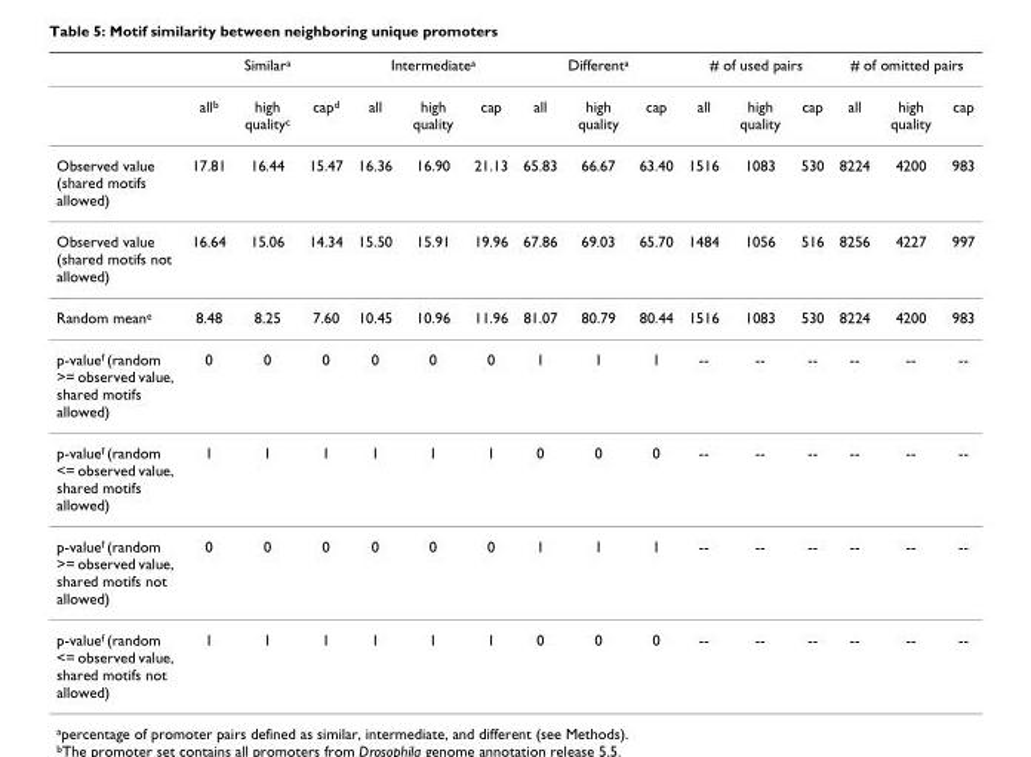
<table><thead><tr><td rowspan="2"></td><td colspan="3">Similar<sup>a</sup></td><td colspan="3">Intermediate<sup>a</sup></td><td colspan="3">Different<sup>a</sup></td><td colspan="3"># of used pairs</td><td colspan="3"># of omitted pairs</td></tr><tr><td>all<sup>b</sup></td><td>high quality<sup>c</sup></td><td>cap<sup>d</sup></td><td>all</td><td>high quality</td><td>cap</td><td>all</td><td>high quality</td><td>cap</td><td>all</td><td>high quality</td><td>cap</td><td>all</td><td>high quality</td><td>cap</td></tr></thead><tbody><tr><td>Observed value (shared motifs allowed)</td><td>17.81</td><td>16.44</td><td>15.47</td><td>16.36</td><td>16.90</td><td>21.13</td><td>65.83</td><td>66.67</td><td>63.40</td><td>1516</td><td>1083</td><td>530</td><td>8224</td><td>4200</td><td>983</td></tr><tr><td>Observed value (shared motifs not allowed)</td><td>16.64</td><td>15.06</td><td>14.34</td><td>15.50</td><td>15.91</td><td>19.96</td><td>67.86</td><td>69.03</td><td>65.70</td><td>1484</td><td>1056</td><td>516</td><td>8256</td><td>4227</td><td>997</td></tr><tr><td>Random mean<sup>e</sup></td><td>8.48</td><td>8.25</td><td>7.60</td><td>10.45</td><td>10.96</td><td>11.96</td><td>81.07</td><td>80.79</td><td>80.44</td><td>1516</td><td>1083</td><td>530</td><td>8224</td><td>4200</td><td>983</td></tr><tr><td>p-value<sup>f</sup> (random &gt;= observed value, shared motifs allowed)</td><td>0</td><td>0</td><td>0</td><td>0</td><td>0</td><td>0</td><td>1</td><td>1</td><td>1</td><td>--</td><td>--</td><td>--</td><td>--</td><td>--</td><td>--</td></tr><tr><td>p-value<sup>f</sup> (random &lt;= observed value, shared motifs allowed)</td><td>1</td><td>1</td><td>1</td><td>1</td><td>1</td><td>1</td><td>0</td><td>0</td><td>0</td><td>--</td><td>--</td><td>--</td><td>--</td><td>--</td><td>--</td></tr><tr><td>p-value<sup>f</sup> (random &gt;= observed value, shared motifs not allowed)</td><td>0</td><td>0</td><td>0</td><td>0</td><td>0</td><td>0</td><td>1</td><td>1</td><td>1</td><td>--</td><td>--</td><td>--</td><td>--</td><td>--</td><td>--</td></tr><tr><td>p-value<sup>f</sup> (random &lt;= observed value, shared motifs not allowed)</td><td>1</td><td>1</td><td>1</td><td>1</td><td>1</td><td>1</td><td>0</td><td>0</td><td>0</td><td>--</td><td>--</td><td>--</td><td>--</td><td>--</td><td>--</td></tr></tbody></table>